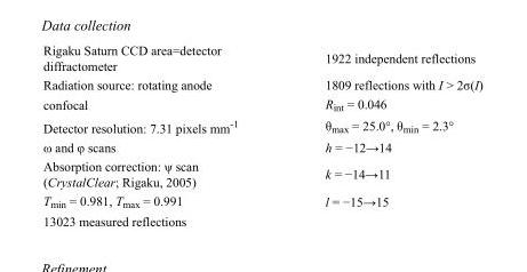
<table><tbody><tr><td>Rigaku Saturn CCD area=detector diffractometer</td><td>1922 independent reflections</td></tr><tr><td>Radiation source: rotating anode</td><td>1809 reflections with I &gt; 2σ(I)</td></tr><tr><td>confocal</td><td>R<sub>int</sub> = 0.046</td></tr><tr><td>Detector resolution: 7.31 pixels mm<sup>-1</sup></td><td>θ<sub>max</sub> = 25.0°, θ<sub>min</sub> = 2.3°</td></tr><tr><td>ω and φ scans</td><td>h = −12→14</td></tr><tr><td>Absorption correction: ψ scan (CrystalClear; Rigaku, 2005)</td><td>k = −14→11</td></tr><tr><td>T<sub>min</sub> = 0.981, T<sub>max</sub> = 0.991</td><td>l = −15→15</td></tr><tr><td>13023 measured reflections</td><td></td></tr></tbody></table>